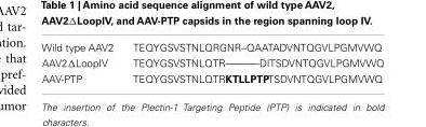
<table><tbody><tr><td>Wild type AAV2</td><td>TEQYGSVSTNLQRGNR–QAATADVNTQGVLPGMVWQ</td></tr><tr><td>AAV2∆LoopIV</td><td>TEQYGSVSTNLQTR———-DITSDVNTQGVLPGMVWQ</td></tr><tr><td>AAV-PTP</td><td>TEQYGSVSTNLQTRKTLLPTPTSDVNTQGVLPGMVWQ</td></tr></tbody></table>